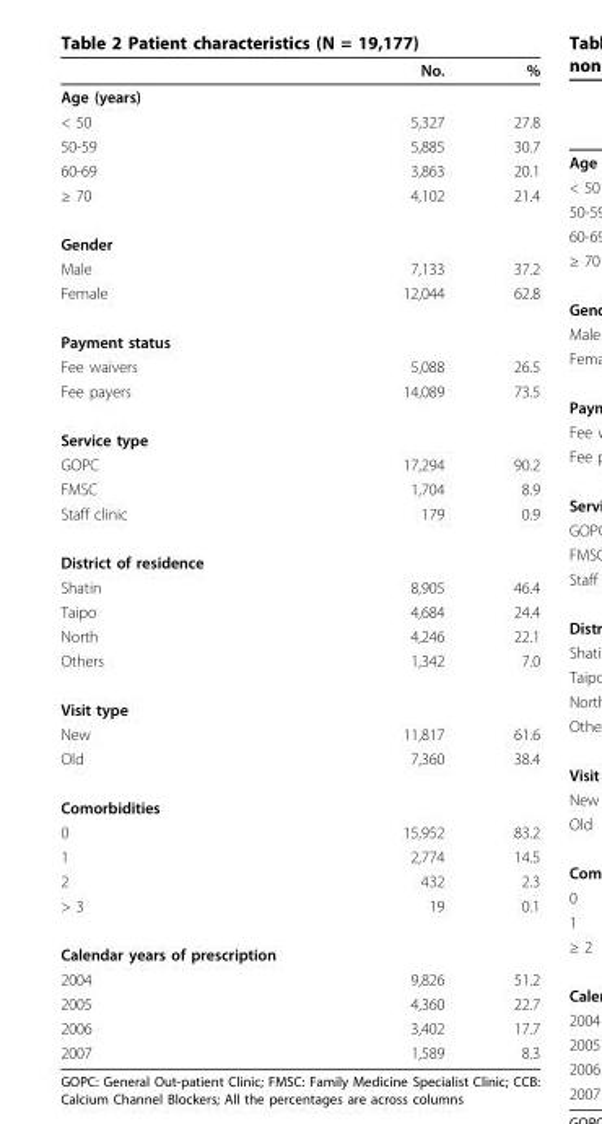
<table><thead><tr><td></td><td>No.</td><td>%</td></tr></thead><tbody><tr><td colspan="3">Age (years)</td></tr><tr><td>&lt; 50</td><td>5,327</td><td>27.8</td></tr><tr><td>50-59</td><td>5,885</td><td>30.7</td></tr><tr><td>60-69</td><td>3,863</td><td>20.1</td></tr><tr><td>≥ 70</td><td>4,102</td><td>21.4</td></tr><tr><td colspan="3">Gender</td></tr><tr><td>Male</td><td>7,133</td><td>37.2</td></tr><tr><td>Female</td><td>12,044</td><td>62.8</td></tr><tr><td colspan="3">Payment status</td></tr><tr><td>Fee waivers</td><td>5,088</td><td>26.5</td></tr><tr><td>Fee payers</td><td>14,089</td><td>73.5</td></tr><tr><td colspan="3">Service type</td></tr><tr><td>GOPC</td><td>17,294</td><td>90.2</td></tr><tr><td>FMSC</td><td>1,704</td><td>8.9</td></tr><tr><td>Staff clinic</td><td>179</td><td>0.9</td></tr><tr><td colspan="3">District of residence</td></tr><tr><td>Shatin</td><td>8,905</td><td>46.4</td></tr><tr><td>Taipo</td><td>4,684</td><td>24.4</td></tr><tr><td>North</td><td>4,246</td><td>22.1</td></tr><tr><td>Others</td><td>1,342</td><td>7.0</td></tr><tr><td colspan="3">Visit type</td></tr><tr><td>New</td><td>11,817</td><td>61.6</td></tr><tr><td>Old</td><td>7,360</td><td>38.4</td></tr><tr><td colspan="3">Comorbidities</td></tr><tr><td>0</td><td>15,952</td><td>83.2</td></tr><tr><td>1</td><td>2,774</td><td>14.5</td></tr><tr><td>2</td><td>432</td><td>2.3</td></tr><tr><td>&gt; 3</td><td>19</td><td>0.1</td></tr><tr><td colspan="3">Calendar years of prescription</td></tr><tr><td>2004</td><td>9,826</td><td>51.2</td></tr><tr><td>2005</td><td>4,360</td><td>22.7</td></tr><tr><td>2006</td><td>3,402</td><td>17.7</td></tr><tr><td>2007</td><td>1,589</td><td>8.3</td></tr></tbody></table>